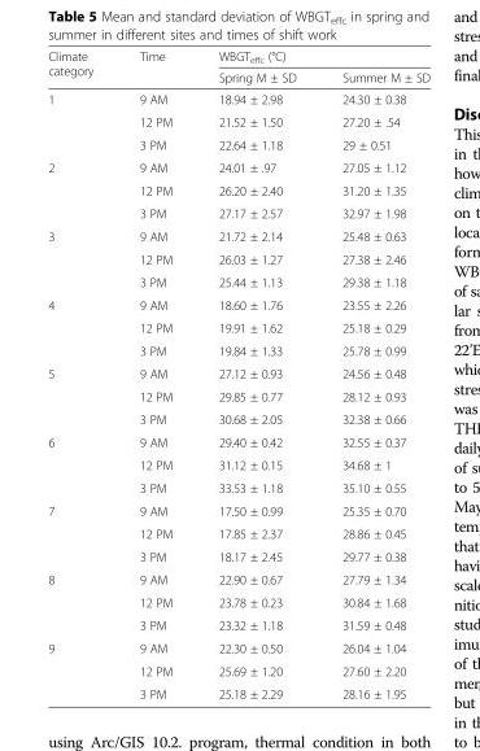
<table><thead><tr><td rowspan="2">Climate category</td><td rowspan="2">Time</td><td colspan="2">WBGT<sub>effc</sub> (°C)</td></tr><tr><td>Spring M ± SD</td><td>Summer M ± SD</td></tr></thead><tbody><tr><td rowspan="3">1</td><td>9 AM</td><td>18.94 ± 2.98</td><td>24.30 ± 0.38</td></tr><tr><td>12 PM</td><td>21.52 ± 1.50</td><td>27.20 ± .54</td></tr><tr><td>3 PM</td><td>22.64 ± 1.18</td><td>29 ± 0.51</td></tr><tr><td rowspan="3">2</td><td>9 AM</td><td>24.01 ± .97</td><td>27.05 ± 1.12</td></tr><tr><td>12 PM</td><td>26.20 ± 2.40</td><td>31.20 ± 1.35</td></tr><tr><td>3 PM</td><td>27.17 ± 2.57</td><td>32.97 ± 1.98</td></tr><tr><td rowspan="3">3</td><td>9 AM</td><td>21.72 ± 2.14</td><td>25.48 ± 0.63</td></tr><tr><td>12 PM</td><td>26.03 ± 1.27</td><td>27.38 ± 2.46</td></tr><tr><td>3 PM</td><td>25.44 ± 1.13</td><td>29.38 ± 1.18</td></tr><tr><td rowspan="3">4</td><td>9 AM</td><td>18.60 ± 1.76</td><td>23.55 ± 2.26</td></tr><tr><td>12 PM</td><td>19.91 ± 1.62</td><td>25.18 ± 0.29</td></tr><tr><td>3 PM</td><td>19.84 ± 1.33</td><td>25.78 ± 0.99</td></tr><tr><td rowspan="3">5</td><td>9 AM</td><td>27.12 ± 0.93</td><td>24.56 ± 0.48</td></tr><tr><td>12 PM</td><td>29.85 ± 0.77</td><td>28.12 ± 0.93</td></tr><tr><td>3 PM</td><td>30.68 ± 2.05</td><td>32.38 ± 0.66</td></tr><tr><td rowspan="3">6</td><td>9 AM</td><td>29.40 ± 0.42</td><td>32.55 ± 0.37</td></tr><tr><td>12 PM</td><td>31.12 ± 0.15</td><td>34.68 ± 1</td></tr><tr><td>3 PM</td><td>33.53 ± 1.18</td><td>35.10 ± 0.55</td></tr><tr><td rowspan="3">7</td><td>9 AM</td><td>17.50 ± 0.99</td><td>25.35 ± 0.70</td></tr><tr><td>12 PM</td><td>17.85 ± 2.37</td><td>28.86 ± 0.45</td></tr><tr><td>3 PM</td><td>18.17 ± 2.45</td><td>29.77 ± 0.38</td></tr><tr><td rowspan="3">8</td><td>9 AM</td><td>22.90 ± 0.67</td><td>27.79 ± 1.34</td></tr><tr><td>12 PM</td><td>23.78 ± 0.23</td><td>30.84 ± 1.68</td></tr><tr><td>3 PM</td><td>23.32 ± 1.18</td><td>31.59 ± 0.48</td></tr><tr><td rowspan="3">9</td><td>9 AM</td><td>22.30 ± 0.50</td><td>26.04 ± 1.04</td></tr><tr><td>12 PM</td><td>25.69 ± 1.20</td><td>27.60 ± 2.20</td></tr><tr><td>3 PM</td><td>25.18 ± 2.29</td><td>28.16 ± 1.95</td></tr></tbody></table>